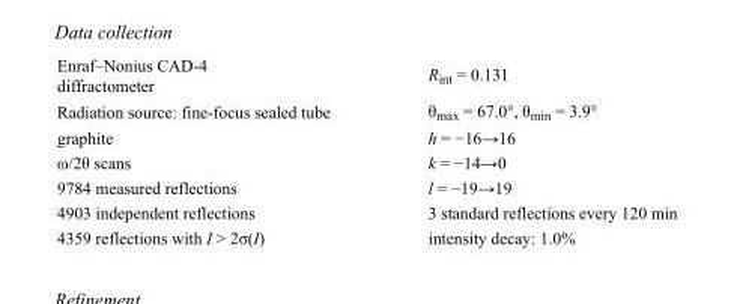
<table><tbody><tr><td>Enraf–Nonius CAD-4 diffractometer</td><td>R<sub>int</sub> = 0.131</td></tr><tr><td>Radiation source: fine-focus sealed tube</td><td>θ<sub>max</sub> = 67.0°, θ<sub>min</sub> = 3.9°</td></tr><tr><td>graphite</td><td>h = −16→16</td></tr><tr><td>ω/2θ scans</td><td>k = −14→0</td></tr><tr><td>9784 measured reflections</td><td>l = −19→19</td></tr><tr><td>4903 independent reflections</td><td>3 standard reflections every 120 min</td></tr><tr><td>4359 reflections with I &gt; 2σ(I)</td><td>intensity decay: 1.0%</td></tr></tbody></table>